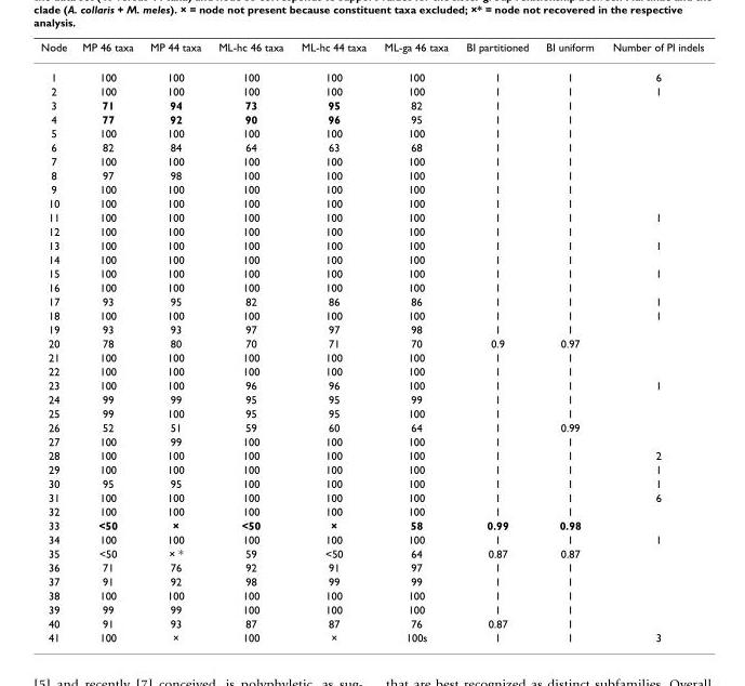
<table><thead><tr><td>Node</td><td>MP 46 taxa</td><td>MP 44 taxa</td><td>ML-hc 46 taxa</td><td>ML-hc 44 taxa</td><td>ML-ga 46 taxa</td><td>BI partitioned</td><td>BI uniform</td><td>Number of PI indels</td></tr></thead><tbody><tr><td>1</td><td>100</td><td>100</td><td>100</td><td>100</td><td>100</td><td>1</td><td>1</td><td>6</td></tr><tr><td>2</td><td>100</td><td>100</td><td>100</td><td>100</td><td>100</td><td>1</td><td>1</td><td>1</td></tr><tr><td>3</td><td>71</td><td>94</td><td>73</td><td>95</td><td>82</td><td>1</td><td>1</td><td></td></tr><tr><td>4</td><td>77</td><td>92</td><td>90</td><td>96</td><td>95</td><td>1</td><td>1</td><td></td></tr><tr><td>5</td><td>100</td><td>100</td><td>100</td><td>100</td><td>100</td><td>1</td><td>1</td><td></td></tr><tr><td>6</td><td>82</td><td>84</td><td>64</td><td>63</td><td>68</td><td>1</td><td>1</td><td></td></tr><tr><td>7</td><td>100</td><td>100</td><td>100</td><td>100</td><td>100</td><td>1</td><td>1</td><td></td></tr><tr><td>8</td><td>97</td><td>98</td><td>100</td><td>100</td><td>100</td><td>1</td><td>1</td><td></td></tr><tr><td>9</td><td>100</td><td>100</td><td>100</td><td>100</td><td>100</td><td>1</td><td>1</td><td></td></tr><tr><td>10</td><td>100</td><td>100</td><td>100</td><td>100</td><td>100</td><td>1</td><td>1</td><td></td></tr><tr><td>11</td><td>100</td><td>100</td><td>100</td><td>100</td><td>100</td><td>1</td><td>1</td><td>1</td></tr><tr><td>12</td><td>100</td><td>100</td><td>100</td><td>100</td><td>100</td><td>1</td><td>1</td><td></td></tr><tr><td>13</td><td>100</td><td>100</td><td>100</td><td>100</td><td>100</td><td>1</td><td>1</td><td>1</td></tr><tr><td>14</td><td>100</td><td>100</td><td>100</td><td>100</td><td>100</td><td>1</td><td>1</td><td></td></tr><tr><td>15</td><td>100</td><td>100</td><td>100</td><td>100</td><td>100</td><td>1</td><td>1</td><td>1</td></tr><tr><td>16</td><td>100</td><td>100</td><td>100</td><td>100</td><td>100</td><td>1</td><td>1</td><td></td></tr><tr><td>17</td><td>93</td><td>95</td><td>82</td><td>86</td><td>86</td><td>1</td><td>1</td><td>1</td></tr><tr><td>18</td><td>100</td><td>100</td><td>100</td><td>100</td><td>100</td><td>1</td><td>1</td><td>1</td></tr><tr><td>19</td><td>93</td><td>93</td><td>97</td><td>97</td><td>98</td><td>1</td><td>1</td><td></td></tr><tr><td>20</td><td>78</td><td>80</td><td>70</td><td>71</td><td>70</td><td>0.9</td><td>0.97</td><td></td></tr><tr><td>21</td><td>100</td><td>100</td><td>100</td><td>100</td><td>100</td><td>1</td><td>1</td><td></td></tr><tr><td>22</td><td>100</td><td>100</td><td>100</td><td>100</td><td>100</td><td>1</td><td>1</td><td></td></tr><tr><td>23</td><td>100</td><td>100</td><td>96</td><td>96</td><td>100</td><td>1</td><td>1</td><td>1</td></tr><tr><td>24</td><td>99</td><td>99</td><td>95</td><td>95</td><td>99</td><td>1</td><td>1</td><td></td></tr><tr><td>25</td><td>99</td><td>100</td><td>95</td><td>95</td><td>100</td><td>1</td><td>1</td><td></td></tr><tr><td>26</td><td>52</td><td>51</td><td>59</td><td>60</td><td>64</td><td>1</td><td>0.99</td><td></td></tr><tr><td>27</td><td>100</td><td>99</td><td>100</td><td>100</td><td>100</td><td>1</td><td>1</td><td></td></tr><tr><td>28</td><td>100</td><td>100</td><td>100</td><td>100</td><td>100</td><td>1</td><td>1</td><td>2</td></tr><tr><td>29</td><td>100</td><td>100</td><td>100</td><td>100</td><td>100</td><td>1</td><td>1</td><td>1</td></tr><tr><td>30</td><td>95</td><td>95</td><td>100</td><td>100</td><td>100</td><td>1</td><td>1</td><td>1</td></tr><tr><td>31</td><td>100</td><td>100</td><td>100</td><td>100</td><td>100</td><td>1</td><td>1</td><td>6</td></tr><tr><td>32</td><td>100</td><td>100</td><td>100</td><td>100</td><td>100</td><td>1</td><td>1</td><td></td></tr><tr><td>33</td><td>&lt;50</td><td>×</td><td>&lt;50</td><td>×</td><td>58</td><td>0.99</td><td>0.98</td><td></td></tr><tr><td>34</td><td>100</td><td>100</td><td>100</td><td>100</td><td>100</td><td>1</td><td>1</td><td>1</td></tr><tr><td>35</td><td>&lt;50</td><td>× *</td><td>59</td><td>&lt;50</td><td>64</td><td>0.87</td><td>0.87</td><td></td></tr><tr><td>36</td><td>71</td><td>76</td><td>92</td><td>91</td><td>97</td><td>1</td><td>1</td><td></td></tr><tr><td>37</td><td>91</td><td>92</td><td>98</td><td>99</td><td>99</td><td>1</td><td>1</td><td></td></tr><tr><td>38</td><td>100</td><td>100</td><td>100</td><td>100</td><td>100</td><td>1</td><td>1</td><td></td></tr><tr><td>39</td><td>99</td><td>99</td><td>100</td><td>100</td><td>100</td><td>1</td><td>1</td><td></td></tr><tr><td>40</td><td>91</td><td>93</td><td>87</td><td>87</td><td>76</td><td>0.87</td><td>1</td><td></td></tr><tr><td>41</td><td>100</td><td>×</td><td>100</td><td>×</td><td>100s</td><td>1</td><td>1</td><td>3</td></tr></tbody></table>